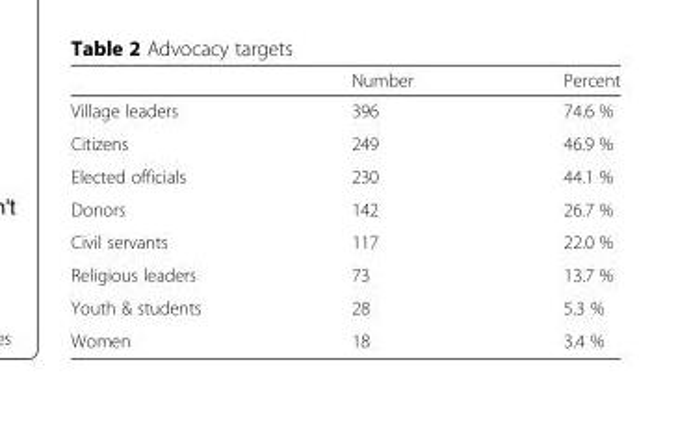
<table><thead><tr><td></td><td>Number</td><td>Percent</td></tr></thead><tbody><tr><td>Village leaders</td><td>396</td><td>74.6 %</td></tr><tr><td>Citizens</td><td>249</td><td>46.9 %</td></tr><tr><td>Elected officials</td><td>230</td><td>44.1 %</td></tr><tr><td>Donors</td><td>142</td><td>26.7 %</td></tr><tr><td>Civil servants</td><td>117</td><td>22.0 %</td></tr><tr><td>Religious leaders</td><td>73</td><td>13.7 %</td></tr><tr><td>Youth &amp; students</td><td>28</td><td>5.3 %</td></tr><tr><td>Women</td><td>18</td><td>3.4 %</td></tr></tbody></table>